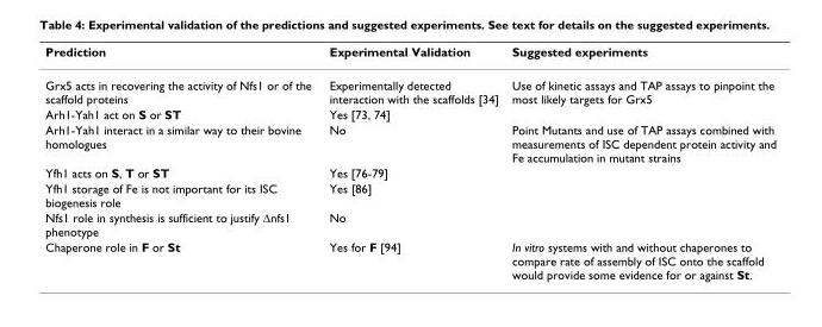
<table><thead><tr><td>Prediction</td><td>Experimental Validation</td><td>Suggested experiments</td></tr></thead><tbody><tr><td>Grx5 acts in recovering the activity of Nfs1 or of the scaffold proteins</td><td>Experimentally detected interaction with the scaffolds [34]</td><td>Use of kinetic assays and TAP assays to pinpoint the most likely targets for Grx5</td></tr><tr><td>Arh1-Yah1 act on S or ST</td><td>Yes [73, 74]</td><td></td></tr><tr><td>Arh1-Yah1 interact in a similar way to their bovine homologues</td><td>No</td><td>Point Mutants and use of TAP assays combined with measurements of ISC dependent protein activity and Fe accumulation in mutant strains</td></tr><tr><td>Yfh1 acts on S, T or ST</td><td>Yes [76-79]</td><td></td></tr><tr><td>Yfh1 storage of Fe is not important for its ISC biogenesis role</td><td>Yes [86]</td><td></td></tr><tr><td>Nfs1 role in synthesis is sufficient to justify Δnfs1 phenotype</td><td>No</td><td></td></tr><tr><td>Chaperone role in F or St</td><td>Yes for F [94]</td><td>In vitro systems with and without chaperones to compare rate of assembly of ISC onto the scaffold would provide some evidence for or against St.</td></tr></tbody></table>